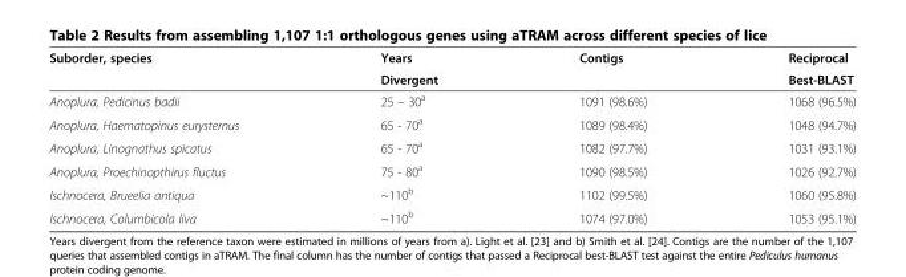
<table><thead><tr><td rowspan="2">Suborder, species</td><td rowspan="2">Years Divergent</td><td rowspan="2">Contigs</td><td rowspan="2">Reciprocal Best-BLAST</td></tr><tr></tr></thead><tbody><tr><td>Anoplura, Pedicinus badii</td><td>25 – 30<sup>a</sup></td><td>1091 (98.6%)</td><td>1068 (96.5%)</td></tr><tr><td>Anoplura, Haematopinus eurysternus</td><td>65 - 70<sup>a</sup></td><td>1089 (98.4%)</td><td>1048 (94.7%)</td></tr><tr><td>Anoplura, Linognathus spicatus</td><td>65 - 70<sup>a</sup></td><td>1082 (97.7%)</td><td>1031 (93.1%)</td></tr><tr><td>Anoplura, Proechinopthirus fluctus</td><td>75 - 80<sup>a</sup></td><td>1090 (98.5%)</td><td>1026 (92.7%)</td></tr><tr><td>Ischnocera, Brueelia antiqua</td><td>~110<sup>b</sup></td><td>1102 (99.5%)</td><td>1060 (95.8%)</td></tr><tr><td>Ischnocera, Columbicola liva</td><td>~110<sup>b</sup></td><td>1074 (97.0%)</td><td>1053 (95.1%)</td></tr></tbody></table>